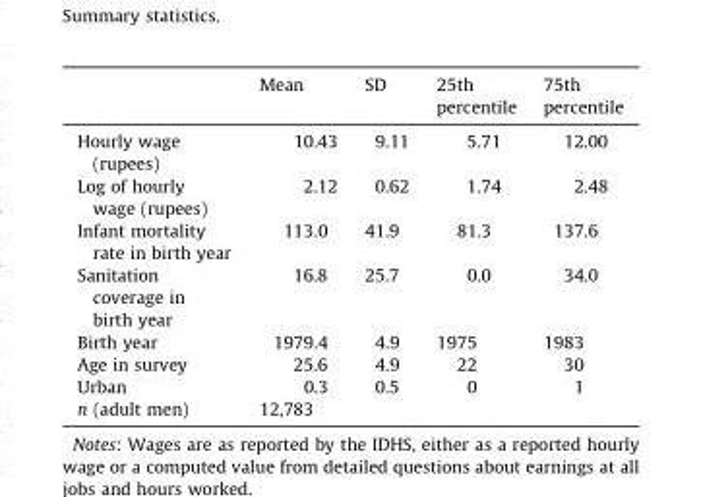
<table><thead><tr><td></td><td>Mean</td><td>SD</td><td>25th percentile</td><td>75th percentile</td></tr></thead><tbody><tr><td>Hourly wage (rupees)</td><td>10.43</td><td>9.11</td><td>5.71</td><td>12.00</td></tr><tr><td>Log of hourly wage (rupees)</td><td>2.12</td><td>0.62</td><td>1.74</td><td>2.48</td></tr><tr><td>Infant mortality rate in birth year</td><td>113.0</td><td>41.9</td><td>81.3</td><td>137.6</td></tr><tr><td>Sanitation coverage in birth year</td><td>16.8</td><td>25.7</td><td>0.0</td><td>34.0</td></tr><tr><td>Birth year</td><td>1979.4</td><td>4.9</td><td>1975</td><td>1983</td></tr><tr><td>Age in survey</td><td>25.6</td><td>4.9</td><td>22</td><td>30</td></tr><tr><td>Urban</td><td>0.3</td><td>0.5</td><td>0</td><td>1</td></tr><tr><td>n (adult men)</td><td>12,783</td><td></td><td></td><td></td></tr></tbody></table>